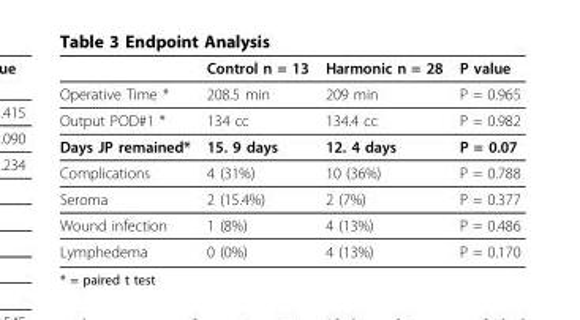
<table><thead><tr><td></td><td>Control n = 13</td><td>Harmonic n = 28</td><td>P value</td></tr></thead><tbody><tr><td>Operative Time *</td><td>208.5 min</td><td>209 min</td><td>P = 0.965</td></tr><tr><td>Output POD#1 *</td><td>134 cc</td><td>134.4 cc</td><td>P = 0.982</td></tr><tr><td>Days JP remained*</td><td>15. 9 days</td><td>12. 4 days</td><td>P = 0.07</td></tr><tr><td>Complications</td><td>4 (31%)</td><td>10 (36%)</td><td>P = 0.788</td></tr><tr><td>Seroma</td><td>2 (15.4%)</td><td>2 (7%)</td><td>P = 0.377</td></tr><tr><td>Wound infection</td><td>1 (8%)</td><td>4 (13%)</td><td>P = 0.486</td></tr><tr><td>Lymphedema</td><td>0 (0%)</td><td>4 (13%)</td><td>P = 0.170</td></tr></tbody></table>